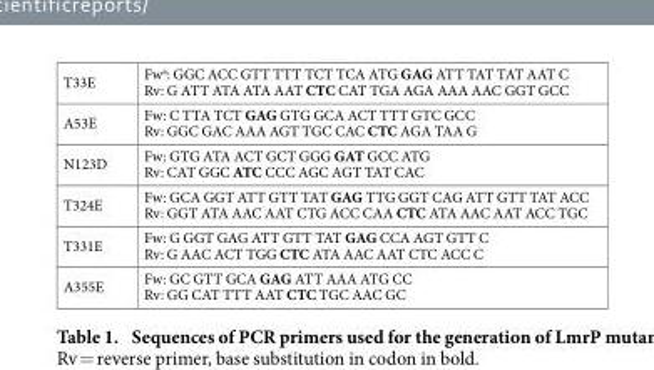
<table><tbody><tr><td>T33E</td><td>Fw<sup>a</sup>: GGC ACC GTT TTT TCT TCA ATG GAG ATT TAT TAT AAT C Rv: G ATT ATA ATA AAT CTC CAT TGA AGA AAA AAC GGT GCC</td></tr><tr><td>A53E</td><td>Fw: C TTA TCT GAG GTG GCA ACT TTT GTC GCC Rv: GGC GAC AAA AGT TGC CAC CTC AGA TAA G</td></tr><tr><td>N123D</td><td>Fw: GTG ATA ACT GCT GGG GAT GCC ATG Rv: CAT GGC ATC CCC AGC AGT TAT CAC</td></tr><tr><td>T324E</td><td>Fw: GCA GGT ATT GTT TAT GAG TTG GGT CAG ATT GTT TAT ACC Rv: GGT ATA AAC AAT CTG ACC CAA CTC ATA AAC AAT ACC TGC</td></tr><tr><td>T331E</td><td>Fw: G GGT GAG ATT GTT TAT GAG CCA AGT GTT C Rv: G AAC ACT TGG CTC ATA AAC AAT CTC ACC C</td></tr><tr><td>A355E</td><td>Fw: GC GTT GCA GAG ATT AAA ATG CC Rv: GG CAT TTT AAT CTC TGC AAC GC</td></tr></tbody></table>